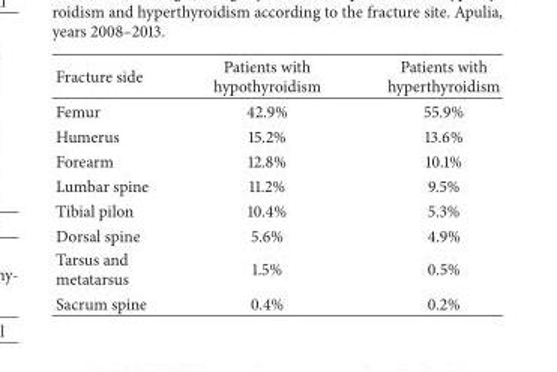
<table><thead><tr><td>Fracture side</td><td>Patients with hypothyroidism</td><td>Patients with hyperthyroidism</td></tr></thead><tbody><tr><td>Femur</td><td>42.9%</td><td>55.9%</td></tr><tr><td>Humerus</td><td>15.2%</td><td>13.6%</td></tr><tr><td>Forearm</td><td>12.8%</td><td>10.1%</td></tr><tr><td>Lumbar spine</td><td>11.2%</td><td>9.5%</td></tr><tr><td>Tibial pilon</td><td>10.4%</td><td>5.3%</td></tr><tr><td>Dorsal spine</td><td>5.6%</td><td>4.9%</td></tr><tr><td>Tarsus and metatarsus</td><td>1.5%</td><td>0.5%</td></tr><tr><td>Sacrum spine</td><td>0.4%</td><td>0.2%</td></tr></tbody></table>